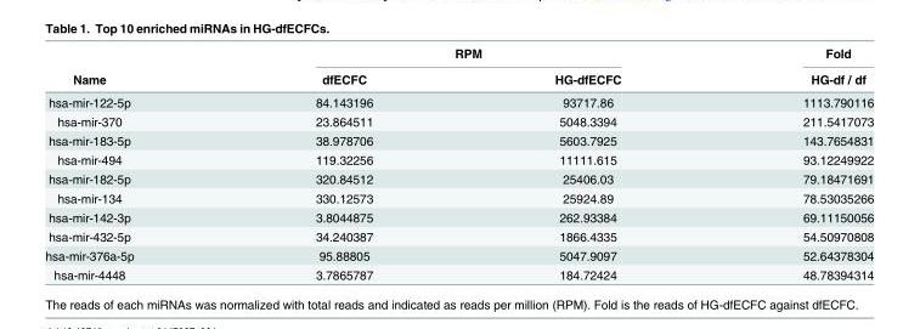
<table><thead><tr><td rowspan="2">Name</td><td colspan="2">RPM</td><td rowspan="2">Fold HG-df / df</td></tr><tr><td>dfECFC</td><td>HG-dfECFC</td></tr></thead><tbody><tr><td>hsa-mir-122-5p</td><td>84.143196</td><td>93717.86</td><td>1113.790116</td></tr><tr><td>hsa-mir-370</td><td>23.864511</td><td>5048.3394</td><td>211.5417073</td></tr><tr><td>hsa-mir-183-5p</td><td>38.978706</td><td>5603.7925</td><td>143.7654831</td></tr><tr><td>hsa-mir-494</td><td>119.32256</td><td>11111.615</td><td>93.12249922</td></tr><tr><td>hsa-mir-182-5p</td><td>320.84512</td><td>25406.03</td><td>79.18471691</td></tr><tr><td>hsa-mir-134</td><td>330.12573</td><td>25924.89</td><td>78.53035266</td></tr><tr><td>hsa-mir-142-3p</td><td>3.8044875</td><td>262.93384</td><td>69.11150056</td></tr><tr><td>hsa-mir-432-5p</td><td>34.240387</td><td>1866.4335</td><td>54.50970808</td></tr><tr><td>hsa-mir-376a-5p</td><td>95.88805</td><td>5047.9097</td><td>52.64378304</td></tr><tr><td>hsa-mir-4448</td><td>3.7865787</td><td>184.72424</td><td>48.78394314</td></tr></tbody></table>